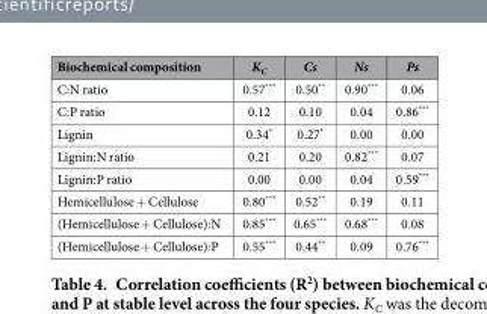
<table><thead><tr><td>Biochemical composition</td><td>K<sub>C</sub></td><td>Cs</td><td>Ns</td><td>Ps</td></tr></thead><tbody><tr><td>C:N ratio</td><td>0.57***</td><td>0.50**</td><td>0.90***</td><td>0.06</td></tr><tr><td>C:P ratio</td><td>0.12</td><td>0.10</td><td>0.04</td><td>0.86***</td></tr><tr><td>Lignin</td><td>0.34*</td><td>0.27*</td><td>0.00</td><td>0.00</td></tr><tr><td>Lignin:N ratio</td><td>0.21</td><td>0.20</td><td>0.82***</td><td>0.07</td></tr><tr><td>Lignin:P ratio</td><td>0.00</td><td>0.00</td><td>0.04</td><td>0.59***</td></tr><tr><td>Hemicellulose + Cellulose</td><td>0.80***</td><td>0.52**</td><td>0.19</td><td>0.11</td></tr><tr><td>(Hemicellulose + Cellulose):N</td><td>0.85***</td><td>0.65***</td><td>0.68***</td><td>0.08</td></tr><tr><td>(Hemicellulose + Cellulose):P</td><td>0.55***</td><td>0.44**</td><td>0.09</td><td>0.76***</td></tr></tbody></table>